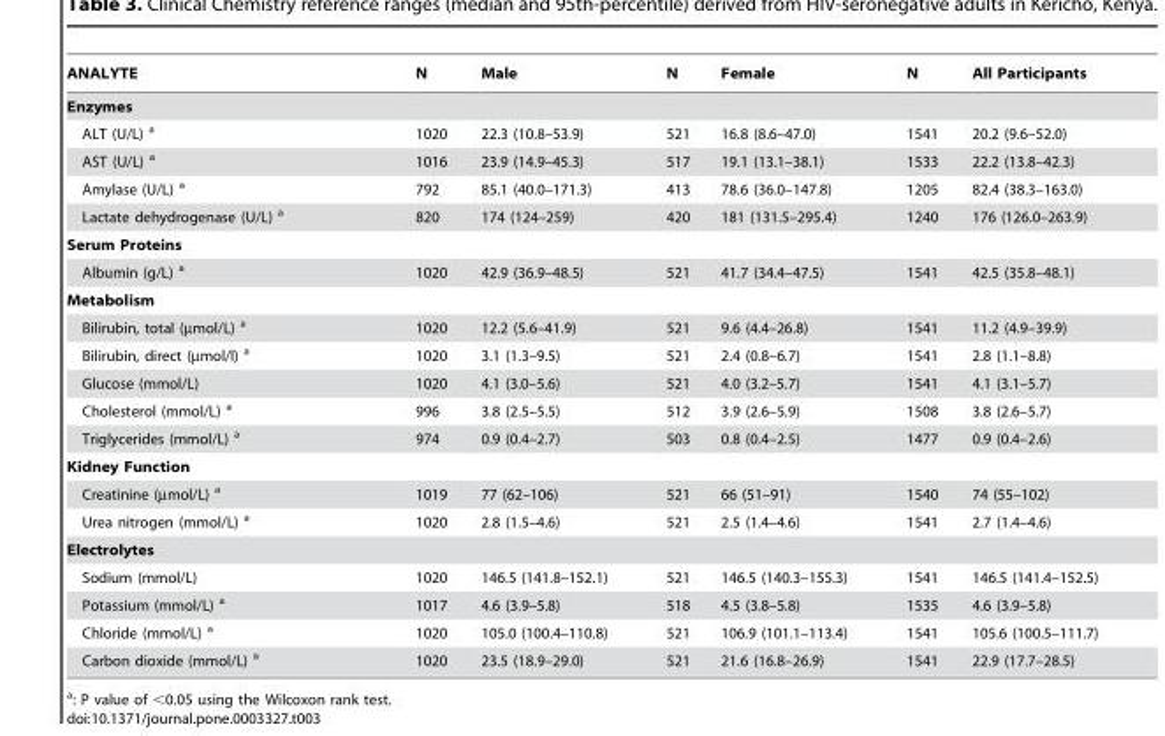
<table><thead><tr><td>ANALYTE</td><td>N</td><td>Male</td><td>N</td><td>Female</td><td>N</td><td>All Participants</td></tr></thead><tbody><tr><td colspan="7">Enzymes</td></tr><tr><td>ALT (U/L) a</td><td>1020</td><td>22.3 (10.8–53.9)</td><td>521</td><td>16.8 (8.6–47.0)</td><td>1541</td><td>20.2 (9.6–52.0)</td></tr><tr><td>AST (U/L) a</td><td>1016</td><td>23.9 (14.9–45.3)</td><td>517</td><td>19.1 (13.1–38.1)</td><td>1533</td><td>22.2 (13.8–42.3)</td></tr><tr><td>Amylase (U/L) a</td><td>792</td><td>85.1 (40.0–171.3)</td><td>413</td><td>78.6 (36.0–147.8)</td><td>1205</td><td>82.4 (38.3–163.0)</td></tr><tr><td>Lactate dehydrogenase (U/L) a</td><td>820</td><td>174 (124–259)</td><td>420</td><td>181 (131.5–295.4)</td><td>1240</td><td>176 (126.0–263.9)</td></tr><tr><td colspan="7">Serum Proteins</td></tr><tr><td>Albumin (g/L) a</td><td>1020</td><td>42.9 (36.9–48.5)</td><td>521</td><td>41.7 (34.4–47.5)</td><td>1541</td><td>42.5 (35.8–48.1)</td></tr><tr><td colspan="7">Metabolism</td></tr><tr><td>Bilirubin, total (µmol/L) a</td><td>1020</td><td>12.2 (5.6–41.9)</td><td>521</td><td>9.6 (4.4–26.8)</td><td>1541</td><td>11.2 (4.9–39.9)</td></tr><tr><td>Bilirubin, direct (µmol/l) a</td><td>1020</td><td>3.1 (1.3–9.5)</td><td>521</td><td>2.4 (0.8–6.7)</td><td>1541</td><td>2.8 (1.1–8.8)</td></tr><tr><td>Glucose (mmol/L)</td><td>1020</td><td>4.1 (3.0–5.6)</td><td>521</td><td>4.0 (3.2–5.7)</td><td>1541</td><td>4.1 (3.1–5.7)</td></tr><tr><td>Cholesterol (mmol/L) a</td><td>996</td><td>3.8 (2.5–5.5)</td><td>512</td><td>3.9 (2.6–5.9)</td><td>1508</td><td>3.8 (2.6–5.7)</td></tr><tr><td>Triglycerides (mmol/L) a</td><td>974</td><td>0.9 (0.4–2.7)</td><td>503</td><td>0.8 (0.4–2.5)</td><td>1477</td><td>0.9 (0.4–2.6)</td></tr><tr><td colspan="7">Kidney Function</td></tr><tr><td>Creatinine (µmol/L) a</td><td>1019</td><td>77 (62–106)</td><td>521</td><td>66 (51–91)</td><td>1540</td><td>74 (55–102)</td></tr><tr><td>Urea nitrogen (mmol/L) a</td><td>1020</td><td>2.8 (1.5–4.6)</td><td>521</td><td>2.5 (1.4–4.6)</td><td>1541</td><td>2.7 (1.4–4.6)</td></tr><tr><td colspan="7">Electrolytes</td></tr><tr><td>Sodium (mmol/L)</td><td>1020</td><td>146.5 (141.8–152.1)</td><td>521</td><td>146.5 (140.3–155.3)</td><td>1541</td><td>146.5 (141.4–152.5)</td></tr><tr><td>Potassium (mmol/L) a</td><td>1017</td><td>4.6 (3.9–5.8)</td><td>518</td><td>4.5 (3.8–5.8)</td><td>1535</td><td>4.6 (3.9–5.8)</td></tr><tr><td>Chloride (mmol/L) a</td><td>1020</td><td>105.0 (100.4–110.8)</td><td>521</td><td>106.9 (101.1–113.4)</td><td>1541</td><td>105.6 (100.5–111.7)</td></tr><tr><td>Carbon dioxide (mmol/L) a</td><td>1020</td><td>23.5 (18.9–29.0)</td><td>521</td><td>21.6 (16.8–26.9)</td><td>1541</td><td>22.9 (17.7–28.5)</td></tr></tbody></table>